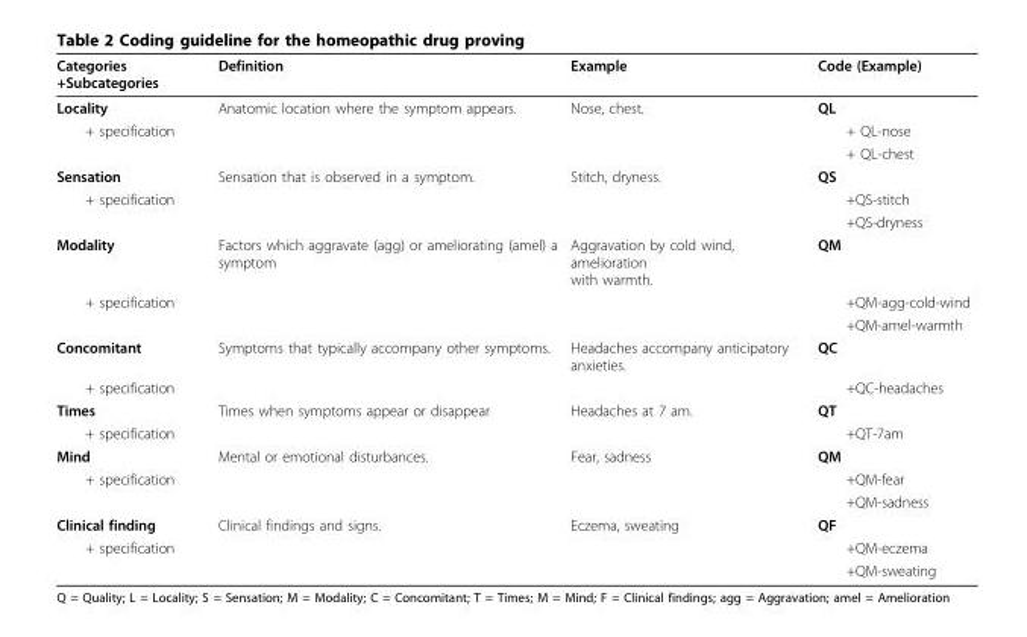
<table><thead><tr><td>Categories +Subcategories</td><td>Definition</td><td>Example</td><td>Code (Example)</td></tr></thead><tbody><tr><td>Locality</td><td>Anatomic location where the symptom appears.</td><td>Nose, chest.</td><td>QL</td></tr><tr><td rowspan="2">+ specification</td><td></td><td></td><td>+ QL-nose</td></tr><tr><td></td><td></td><td>+ QL-chest</td></tr><tr><td>Sensation</td><td>Sensation that is observed in a symptom.</td><td>Stitch, dryness.</td><td>QS</td></tr><tr><td rowspan="2">+ specification</td><td></td><td></td><td>+QS-stitch</td></tr><tr><td></td><td></td><td>+QS-dryness</td></tr><tr><td>Modality</td><td>Factors which aggravate (agg) or ameliorating (amel) a symptom</td><td>Aggravation by cold wind, amelioration with warmth.</td><td>QM</td></tr><tr><td rowspan="2">+ specification</td><td></td><td></td><td>+QM-agg-cold-wind</td></tr><tr><td></td><td></td><td>+QM-amel-warmth</td></tr><tr><td>Concomitant</td><td>Symptoms that typically accompany other symptoms.</td><td>Headaches accompany anticipatory anxieties.</td><td>QC</td></tr><tr><td>+ specification</td><td></td><td></td><td>+QC-headaches</td></tr><tr><td>Times</td><td>Times when symptoms appear or disappear</td><td>Headaches at 7 am.</td><td>QT</td></tr><tr><td>+ specification</td><td></td><td></td><td>+QT-7am</td></tr><tr><td>Mind</td><td>Mental or emotional disturbances.</td><td>Fear, sadness</td><td>QM</td></tr><tr><td rowspan="2">+ specification</td><td></td><td></td><td>+QM-fear</td></tr><tr><td></td><td></td><td>+QM-sadness</td></tr><tr><td>Clinical finding</td><td>Clinical findings and signs.</td><td>Eczema, sweating</td><td>QF</td></tr><tr><td rowspan="2">+ specification</td><td></td><td></td><td>+QM-eczema</td></tr><tr><td></td><td></td><td>+QM-sweating</td></tr></tbody></table>